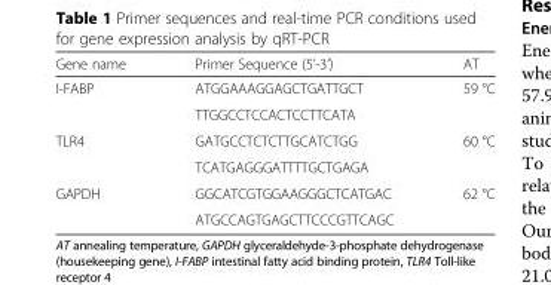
<table><thead><tr><td>Gene name</td><td>Primer Sequence (5’-3’)</td><td>AT</td></tr></thead><tbody><tr><td rowspan="2">I-FABP</td><td>ATGGAAAGGAGCTGATTGCT</td><td rowspan="2">59 °C</td></tr><tr><td>TTGGCCTCCACTCCTTCATA</td></tr><tr><td rowspan="2">TLR4</td><td>GATGCCTCTCTTGCATCTGG</td><td rowspan="2">60 °C</td></tr><tr><td>TCATGAGGGATTTTGCTGAGA</td></tr><tr><td rowspan="2">GAPDH</td><td>GGCATCGTGGAAGGGCTCATGAC</td><td rowspan="2">62 °C</td></tr><tr><td>ATGCCAGTGAGCTTCCCGTTCAGC</td></tr></tbody></table>